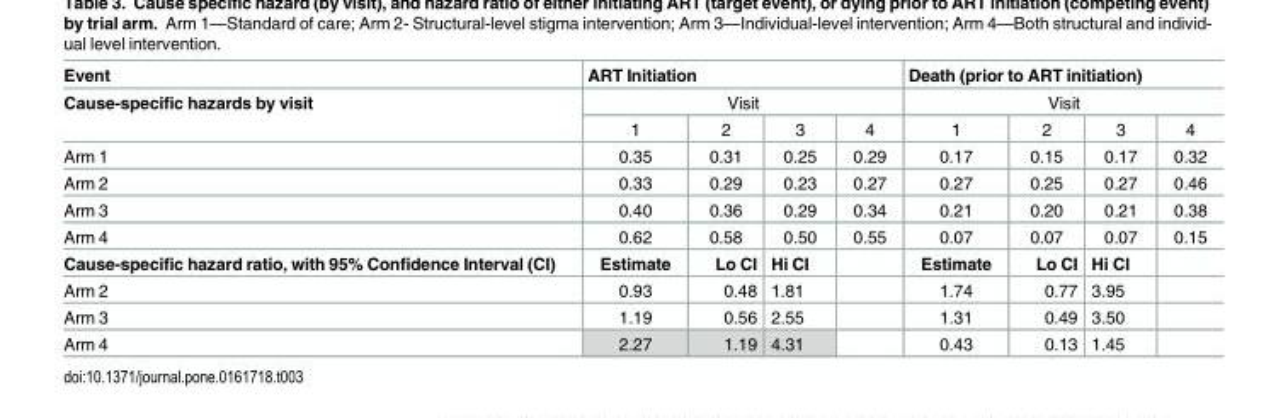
<table><thead><tr><td rowspan="3">Event Cause-specific hazards by visit</td><td rowspan="2" colspan="4">ART Initiation Visit</td><td rowspan="2" colspan="4">Death (prior to ART initiation) Visit</td></tr><tr></tr><tr><td>1</td><td>2</td><td>3</td><td>4</td><td>1</td><td>2</td><td>3</td><td>4</td></tr></thead><tbody><tr><td>Arm 1</td><td>0.35</td><td>0.31</td><td>0.25</td><td>0.29</td><td>0.17</td><td>0.15</td><td>0.17</td><td>0.32</td></tr><tr><td>Arm 2</td><td>0.33</td><td>0.29</td><td>0.23</td><td>0.27</td><td>0.27</td><td>0.25</td><td>0.27</td><td>0.46</td></tr><tr><td>Arm 3</td><td>0.40</td><td>0.36</td><td>0.29</td><td>0.34</td><td>0.21</td><td>0.20</td><td>0.21</td><td>0.38</td></tr><tr><td>Arm 4</td><td>0.62</td><td>0.58</td><td>0.50</td><td>0.55</td><td>0.07</td><td>0.07</td><td>0.07</td><td>0.15</td></tr><tr><td>Cause-specific hazard ratio, with 95% Confidence Interval (CI)</td><td>Estimate</td><td>Lo CI</td><td>Hi CI</td><td></td><td>Estimate</td><td>Lo CI</td><td>Hi CI</td><td></td></tr><tr><td>Arm 2</td><td>0.93</td><td>0.48</td><td>1.81</td><td></td><td>1.74</td><td>0.77</td><td>3.95</td><td></td></tr><tr><td>Arm 3</td><td>1.19</td><td>0.56</td><td>2.55</td><td></td><td>1.31</td><td>0.49</td><td>3.50</td><td></td></tr><tr><td>Arm 4</td><td>2.27</td><td>1.19</td><td>4.31</td><td></td><td>0.43</td><td>0.13</td><td>1.45</td><td></td></tr></tbody></table>